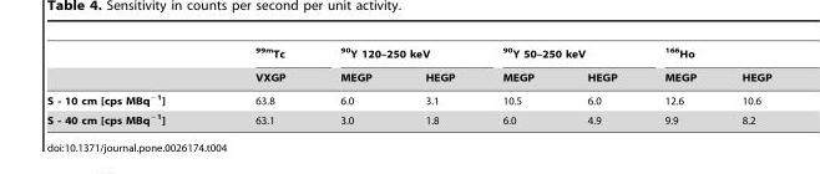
<table><thead><tr><td rowspan="2"></td><td rowspan="2"><sup>99m</sup>Tc VXGP</td><td colspan="2"><sup>90</sup>Y 120–250 keV</td><td colspan="2"><sup>90</sup>Y 50–250 keV</td><td colspan="2"><sup>166</sup>Ho</td></tr><tr><td>MEGP</td><td>HEGP</td><td>MEGP</td><td>HEGP</td><td>MEGP</td><td>HEGP</td></tr></thead><tbody><tr><td>S - 10 cm [cps MBq<sup>−1</sup>]</td><td>63.8</td><td>6.0</td><td>3.1</td><td>10.5</td><td>6.0</td><td>12.6</td><td>10.6</td></tr><tr><td>S - 40 cm [cps MBq<sup>−1</sup>]</td><td>63.1</td><td>3.0</td><td>1.8</td><td>6.0</td><td>4.9</td><td>9.9</td><td>8.2</td></tr></tbody></table>